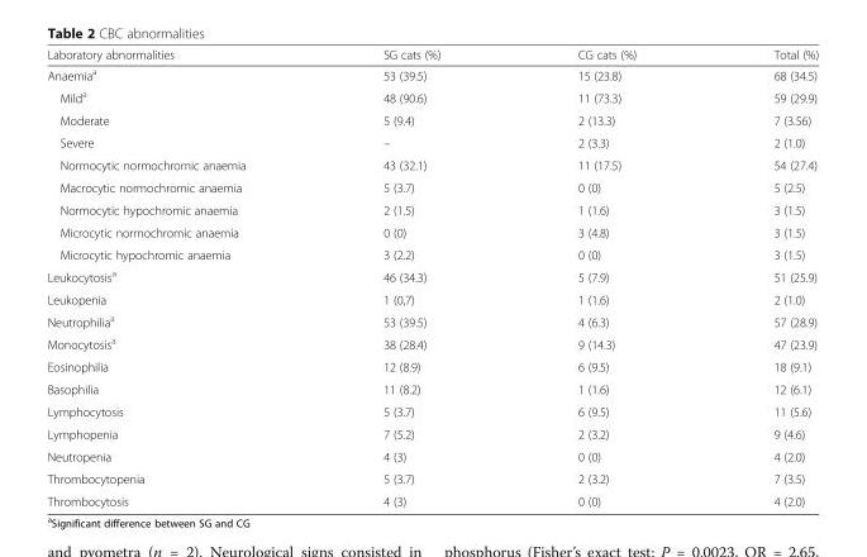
<table><thead><tr><td>Laboratory abnormalities</td><td>SG cats (%)</td><td>CG cats (%)</td><td>Total (%)</td></tr></thead><tbody><tr><td>Anaemia<sup>a</sup></td><td>53 (39.5)</td><td>15 (23.8)</td><td>68 (34.5)</td></tr><tr><td>Mild<sup>a</sup></td><td>48 (90.6)</td><td>11 (73.3)</td><td>59 (29.9)</td></tr><tr><td>Moderate</td><td>5 (9.4)</td><td>2 (13.3)</td><td>7 (3.56)</td></tr><tr><td>Severe</td><td>–</td><td>2 (3.3)</td><td>2 (1.0)</td></tr><tr><td>Normocytic normochromic anaemia</td><td>43 (32.1)</td><td>11 (17.5)</td><td>54 (27.4)</td></tr><tr><td>Macrocytic normochromic anaemia</td><td>5 (3.7)</td><td>0 (0)</td><td>5 (2.5)</td></tr><tr><td>Normocytic hypochromic anaemia</td><td>2 (1.5)</td><td>1 (1.6)</td><td>3 (1.5)</td></tr><tr><td>Microcytic normochromic anaemia</td><td>0 (0)</td><td>3 (4.8)</td><td>3 (1.5)</td></tr><tr><td>Microcytic hypochromic anaemia</td><td>3 (2.2)</td><td>0 (0)</td><td>3 (1.5)</td></tr><tr><td>Leukocytosis<sup>a</sup></td><td>46 (34.3)</td><td>5 (7.9)</td><td>51 (25.9)</td></tr><tr><td>Leukopenia</td><td>1 (0,7)</td><td>1 (1.6)</td><td>2 (1.0)</td></tr><tr><td>Neutrophilia<sup>a</sup></td><td>53 (39.5)</td><td>4 (6.3)</td><td>57 (28.9)</td></tr><tr><td>Monocytosis<sup>a</sup></td><td>38 (28.4)</td><td>9 (14.3)</td><td>47 (23.9)</td></tr><tr><td>Eosinophilia</td><td>12 (8.9)</td><td>6 (9.5)</td><td>18 (9.1)</td></tr><tr><td>Basophilia</td><td>11 (8.2)</td><td>1 (1.6)</td><td>12 (6.1)</td></tr><tr><td>Lymphocytosis</td><td>5 (3.7)</td><td>6 (9.5)</td><td>11 (5.6)</td></tr><tr><td>Lymphopenia</td><td>7 (5.2)</td><td>2 (3.2)</td><td>9 (4.6)</td></tr><tr><td>Neutropenia</td><td>4 (3)</td><td>0 (0)</td><td>4 (2.0)</td></tr><tr><td>Thrombocytopenia</td><td>5 (3.7)</td><td>2 (3.2)</td><td>7 (3.5)</td></tr><tr><td>Thrombocytosis</td><td>4 (3)</td><td>0 (0)</td><td>4 (2.0)</td></tr></tbody></table>